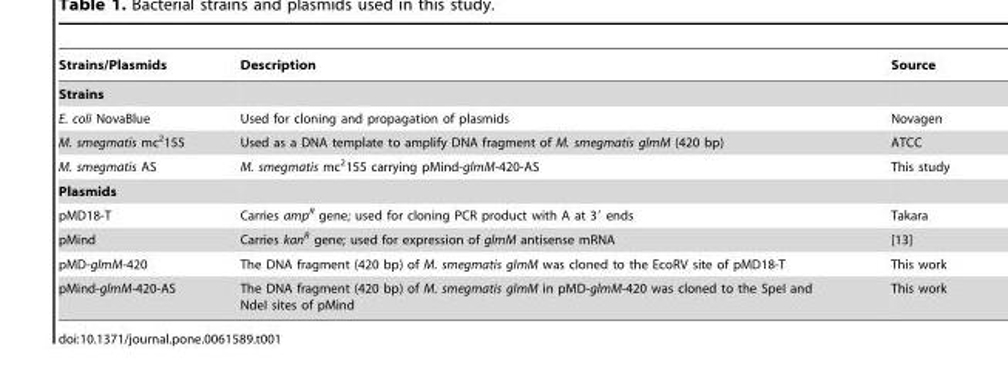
<table><thead><tr><td>Strains/Plasmids</td><td>Description</td><td>Source</td></tr></thead><tbody><tr><td colspan="3">Strains</td></tr><tr><td>E. coli NovaBlue</td><td>Used for cloning and propagation of plasmids</td><td>Novagen</td></tr><tr><td>M. smegmatis mc<sup>2</sup>155</td><td>Used as a DNA template to amplify DNA fragment of M. smegmatis glmM (420 bp)</td><td>ATCC</td></tr><tr><td>M. smegmatis AS</td><td>M. smegmatis mc<sup>2</sup>155 carrying pMind-glmM-420-AS</td><td>This study</td></tr><tr><td colspan="3">Plasmids</td></tr><tr><td>pMD18-T</td><td>Carries amp<sup>R</sup> gene; used for cloning PCR product with A at 3′ ends</td><td>Takara</td></tr><tr><td>pMind</td><td>Carries kan<sup>R</sup> gene; used for expression of glmM antisense mRNA</td><td>[13]</td></tr><tr><td>pMD-glmM-420</td><td>The DNA fragment (420 bp) of M. smegmatis glmM was cloned to the EcoRV site of pMD18-T</td><td>This work</td></tr><tr><td>pMind-glmM-420-AS</td><td>The DNA fragment (420 bp) of M. smegmatis glmM in pMD-glmM-420 was cloned to the SpeI and NdeI sites of pMind</td><td>This work</td></tr></tbody></table>